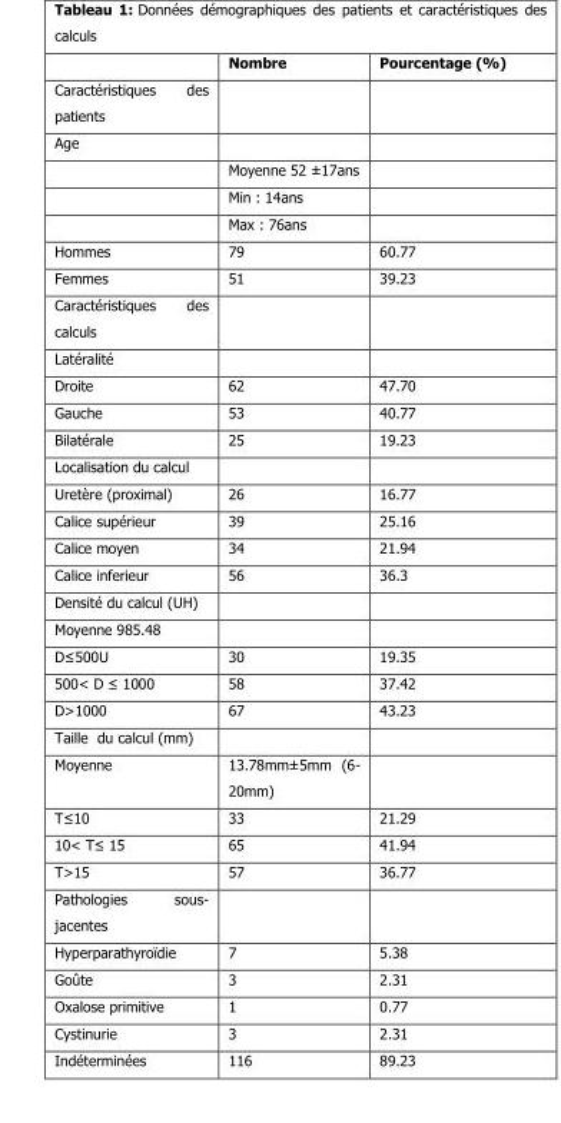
<table><thead><tr><td></td><td>Nombre</td><td>Pourcentage (%)</td></tr></thead><tbody><tr><td colspan="3">Caractéristiques des patients</td></tr><tr><td colspan="3">Age</td></tr><tr><td></td><td>Moyenne 52 ±17ans</td><td></td></tr><tr><td></td><td>Min : 14ans</td><td></td></tr><tr><td></td><td>Max : 76ans</td><td></td></tr><tr><td>Hommes</td><td>79</td><td>60.77</td></tr><tr><td>Femmes</td><td>51</td><td>39.23</td></tr><tr><td colspan="3">Caractéristiques des calculs</td></tr><tr><td colspan="3">Latéralité</td></tr><tr><td>Droite</td><td>62</td><td>47.70</td></tr><tr><td>Gauche</td><td>53</td><td>40.77</td></tr><tr><td>Bilatérale</td><td>25</td><td>19.23</td></tr><tr><td colspan="3">Localisation du calcul</td></tr><tr><td>Uretère (proximal)</td><td>26</td><td>16.77</td></tr><tr><td>Calice supérieur</td><td>39</td><td>25.16</td></tr><tr><td>Calice moyen</td><td>34</td><td>21.94</td></tr><tr><td>Calice inferieur</td><td>56</td><td>36.3</td></tr><tr><td colspan="3">Densité du calcul (UH)</td></tr><tr><td colspan="3">Moyenne 985.48</td></tr><tr><td>D≤500U</td><td>30</td><td>19.35</td></tr><tr><td>500&lt; D ≤ 1000</td><td>58</td><td>37.42</td></tr><tr><td>D&gt;1000</td><td>67</td><td>43.23</td></tr><tr><td colspan="3">Taille du calcul (mm)</td></tr><tr><td>Moyenne</td><td>13.78mm±5mm (6- 20mm)</td><td></td></tr><tr><td>T≤10</td><td>33</td><td>21.29</td></tr><tr><td>10&lt; T≤ 15</td><td>65</td><td>41.94</td></tr><tr><td>T&gt;15</td><td>57</td><td>36.77</td></tr><tr><td colspan="3">Pathologies sous- jacentes</td></tr><tr><td>Hyperparathyroïdie</td><td>7</td><td>5.38</td></tr><tr><td>Goûte</td><td>3</td><td>2.31</td></tr><tr><td>Oxalose primitive</td><td>1</td><td>0.77</td></tr><tr><td>Cystinurie</td><td>3</td><td>2.31</td></tr><tr><td>Indéterminées</td><td>116</td><td>89.23</td></tr></tbody></table>